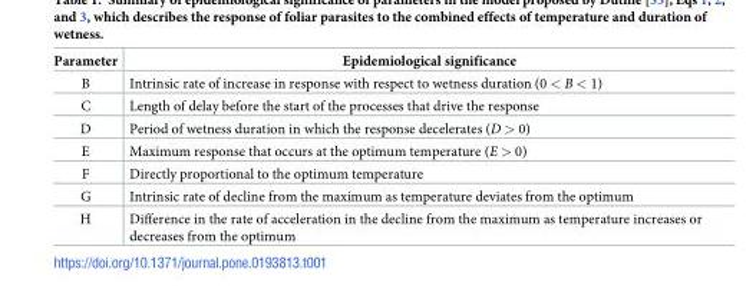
<table><thead><tr><td>Parameter</td><td>Epidemiological significance</td></tr></thead><tbody><tr><td>B</td><td>Intrinsic rate of increase in response with respect to wetness duration (0 &lt; B &lt; 1)</td></tr><tr><td>C</td><td>Length of delay before the start of the processes that drive the response</td></tr><tr><td>D</td><td>Period of wetness duration in which the response decelerates (D &gt; 0)</td></tr><tr><td>E</td><td>Maximum response that occurs at the optimum temperature (E &gt; 0)</td></tr><tr><td>F</td><td>Directly proportional to the optimum temperature</td></tr><tr><td>G</td><td>Intrinsic rate of decline from the maximum as temperature deviates from the optimum</td></tr><tr><td>H</td><td>Difference in the rate of acceleration in the decline from the maximum as temperature increases or decreases from the optimum</td></tr></tbody></table>